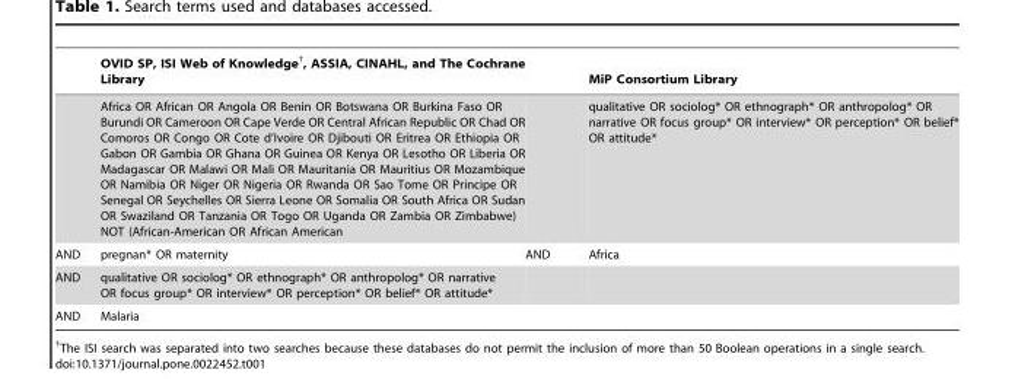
<table><thead><tr><td></td><td>OVID SP, ISI Web of Knowledge†, ASSIA, CINAHL, and The Cochrane Library</td><td></td><td>MiP Consortium Library</td></tr></thead><tbody><tr><td></td><td>Africa OR African OR Angola OR Benin OR Botswana OR Burkina Faso OR Burundi OR Cameroon OR Cape Verde OR Central African Republic OR Chad OR Comoros OR Congo OR Cote d’Ivoire OR Djibouti OR Eritrea OR Ethiopia OR Gabon OR Gambia OR Ghana OR Guinea OR Kenya OR Lesotho OR Liberia OR Madagascar OR Malawi OR Mali OR Mauritania OR Mauritius OR Mozambique OR Namibia OR Niger OR Nigeria OR Rwanda OR Sao Tome OR Principe OR Senegal OR Seychelles OR Sierra Leone OR Somalia OR South Africa OR Sudan OR Swaziland OR Tanzania OR Togo OR Uganda OR Zambia OR Zimbabwe) NOT (African-American OR African American</td><td></td><td>qualitative OR sociolog* OR ethnograph* OR anthropolog* OR narrative OR focus group* OR interview* OR perception* OR belief* OR attitude*</td></tr><tr><td>AND</td><td>pregnan* OR maternity</td><td>AND</td><td>Africa</td></tr><tr><td>AND</td><td>qualitative OR sociolog* OR ethnograph* OR anthropolog* OR narrative OR focus group* OR interview* OR perception* OR belief* OR attitude*</td><td></td><td></td></tr><tr><td>AND</td><td>Malaria</td><td></td><td></td></tr></tbody></table>